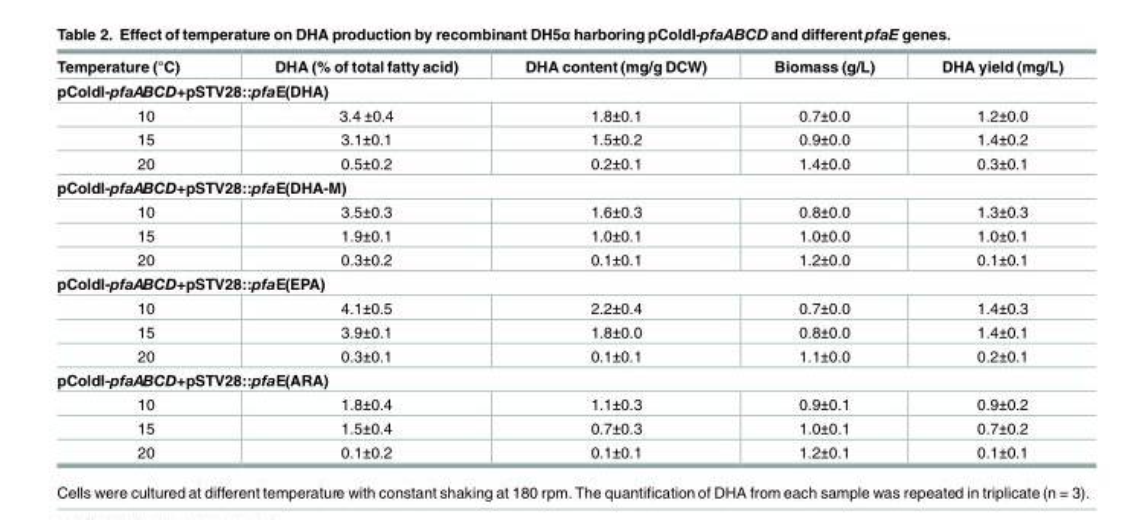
<table><thead><tr><td>Temperature (°C)</td><td>DHA (% of total fatty acid)</td><td>DHA content (mg/g DCW)</td><td>Biomass (g/L)</td><td>DHA yield (mg/L)</td></tr></thead><tbody><tr><td colspan="5">pColdI-pfaABCD+pSTV28::pfaE(DHA)</td></tr><tr><td>10</td><td>3.4 ±0.4</td><td>1.8±0.1</td><td>0.7±0.0</td><td>1.2±0.0</td></tr><tr><td>15</td><td>3.1±0.1</td><td>1.5±0.2</td><td>0.9±0.0</td><td>1.4±0.2</td></tr><tr><td>20</td><td>0.5±0.2</td><td>0.2±0.1</td><td>1.4±0.0</td><td>0.3±0.1</td></tr><tr><td colspan="5">pColdI-pfaABCD+pSTV28::pfaE(DHA-M)</td></tr><tr><td>10</td><td>3.5±0.3</td><td>1.6±0.3</td><td>0.8±0.0</td><td>1.3±0.3</td></tr><tr><td>15</td><td>1.9±0.1</td><td>1.0±0.1</td><td>1.0±0.0</td><td>1.0±0.1</td></tr><tr><td>20</td><td>0.3±0.2</td><td>0.1±0.1</td><td>1.2±0.0</td><td>0.1±0.1</td></tr><tr><td colspan="5">pColdI-pfaABCD+pSTV28::pfaE(EPA)</td></tr><tr><td>10</td><td>4.1±0.5</td><td>2.2±0.4</td><td>0.7±0.0</td><td>1.4±0.3</td></tr><tr><td>15</td><td>3.9±0.1</td><td>1.8±0.0</td><td>0.8±0.0</td><td>1.4±0.1</td></tr><tr><td>20</td><td>0.3±0.1</td><td>0.1±0.1</td><td>1.1±0.0</td><td>0.2±0.1</td></tr><tr><td colspan="5">pColdI-pfaABCD+pSTV28::pfaE(ARA)</td></tr><tr><td>10</td><td>1.8±0.4</td><td>1.1±0.3</td><td>0.9±0.1</td><td>0.9±0.2</td></tr><tr><td>15</td><td>1.5±0.4</td><td>0.7±0.3</td><td>1.0±0.1</td><td>0.7±0.2</td></tr><tr><td>20</td><td>0.1±0.2</td><td>0.1±0.1</td><td>1.2±0.1</td><td>0.1±0.1</td></tr></tbody></table>